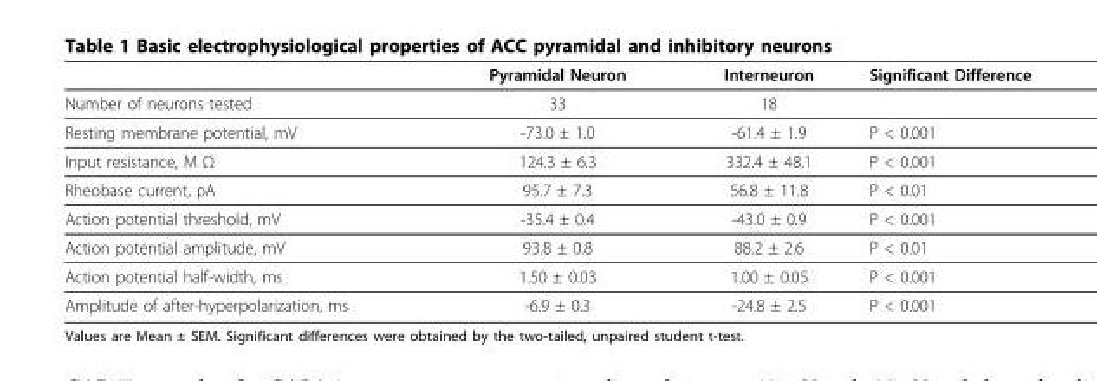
<table><thead><tr><td></td><td>Pyramidal Neuron</td><td>Interneuron</td><td>Significant Difference</td></tr></thead><tbody><tr><td>Number of neurons tested</td><td>33</td><td>18</td><td></td></tr><tr><td>Resting membrane potential, mV</td><td>-73.0 ± 1.0</td><td>-61.4 ± 1.9</td><td>P &lt; 0.001</td></tr><tr><td>Input resistance, M Ω</td><td>124.3 ± 6.3</td><td>332.4 ± 48.1</td><td>P &lt; 0.001</td></tr><tr><td>Rheobase current, pA</td><td>95.7 ± 7.3</td><td>56.8 ± 11.8</td><td>P &lt; 0.01</td></tr><tr><td>Action potential threshold, mV</td><td>-35.4 ± 0.4</td><td>-43.0 ± 0.9</td><td>P &lt; 0.001</td></tr><tr><td>Action potential amplitude, mV</td><td>93.8 ± 0.8</td><td>88.2 ± 2.6</td><td>P &lt; 0.01</td></tr><tr><td>Action potential half-width, ms</td><td>1.50 ± 0.03</td><td>1.00 ± 0.05</td><td>P &lt; 0.001</td></tr><tr><td>Amplitude of after-hyperpolarization, ms</td><td>-6.9 ± 0.3</td><td>-24.8 ± 2.5</td><td>P &lt; 0.001</td></tr></tbody></table>